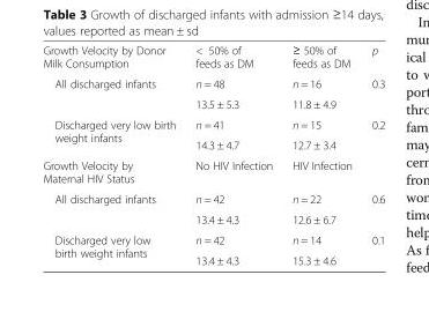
<table><tbody><tr><td>Growth Velocity by Donor Milk Consumption</td><td>&lt; 50% of feeds as DM</td><td>≥ 50% of feeds as DM</td><td>p</td></tr><tr><td rowspan="2">All discharged infants</td><td>n = 48</td><td>n = 16</td><td rowspan="2">0.3</td></tr><tr><td>13.5 ± 5.3</td><td>11.8 ± 4.9</td></tr><tr><td rowspan="2">Discharged very low birth weight infants</td><td>n = 41</td><td>n = 15</td><td rowspan="2">0.2</td></tr><tr><td>14.3 ± 4.7</td><td>12.7 ± 3.4</td></tr><tr><td>Growth Velocity by Maternal HIV Status</td><td>No HIV Infection</td><td>HIV Infection</td><td></td></tr><tr><td rowspan="2">All discharged infants</td><td>n = 42</td><td>n = 22</td><td rowspan="2">0.6</td></tr><tr><td>13.4 ± 4.3</td><td>12.6 ± 6.7</td></tr><tr><td rowspan="2">Discharged very low birth weight infants</td><td>n = 42</td><td>n = 14</td><td rowspan="2">0.1</td></tr><tr><td>13.4 ± 4.3</td><td>15.3 ± 4.6</td></tr></tbody></table>